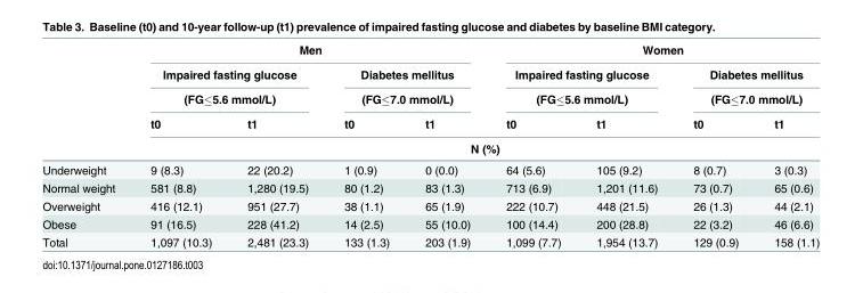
<table><thead><tr><td rowspan="5"></td><td colspan="4">Men</td><td colspan="4">Women</td></tr><tr><td rowspan="2" colspan="2">Impaired fasting glucose (FG≤5.6 mmol/L)</td><td rowspan="2" colspan="2">Diabetes mellitus (FG≤7.0 mmol/L)</td><td rowspan="2" colspan="2">Impaired fasting glucose (FG≤5.6 mmol/L)</td><td rowspan="2" colspan="2">Diabetes mellitus (FG≤7.0 mmol/L)</td></tr><tr></tr><tr><td>t0</td><td>t1</td><td>t0</td><td>t1</td><td>t0</td><td>t1</td><td>t0</td><td>t1</td></tr><tr><td colspan="8">N (%)</td></tr></thead><tbody><tr><td>Underweight</td><td>9 (8.3)</td><td>22 (20.2)</td><td>1 (0.9)</td><td>0 (0.0)</td><td>64 (5.6)</td><td>105 (9.2)</td><td>8 (0.7)</td><td>3 (0.3)</td></tr><tr><td>Normal weight</td><td>581 (8.8)</td><td>1,280 (19.5)</td><td>80 (1.2)</td><td>83 (1.3)</td><td>713 (6.9)</td><td>1,201 (11.6)</td><td>73 (0.7)</td><td>65 (0.6)</td></tr><tr><td>Overweight</td><td>416 (12.1)</td><td>951 (27.7)</td><td>38 (1.1)</td><td>65 (1.9)</td><td>222 (10.7)</td><td>448 (21.5)</td><td>26 (1.3)</td><td>44 (2.1)</td></tr><tr><td>Obese</td><td>91 (16.5)</td><td>228 (41.2)</td><td>14 (2.5)</td><td>55 (10.0)</td><td>100 (14.4)</td><td>200 (28.8)</td><td>22 (3.2)</td><td>46 (6.6)</td></tr><tr><td>Total</td><td>1,097 (10.3)</td><td>2,481 (23.3)</td><td>133 (1.3)</td><td>203 (1.9)</td><td>1,099 (7.7)</td><td>1,954 (13.7)</td><td>129 (0.9)</td><td>158 (1.1)</td></tr></tbody></table>